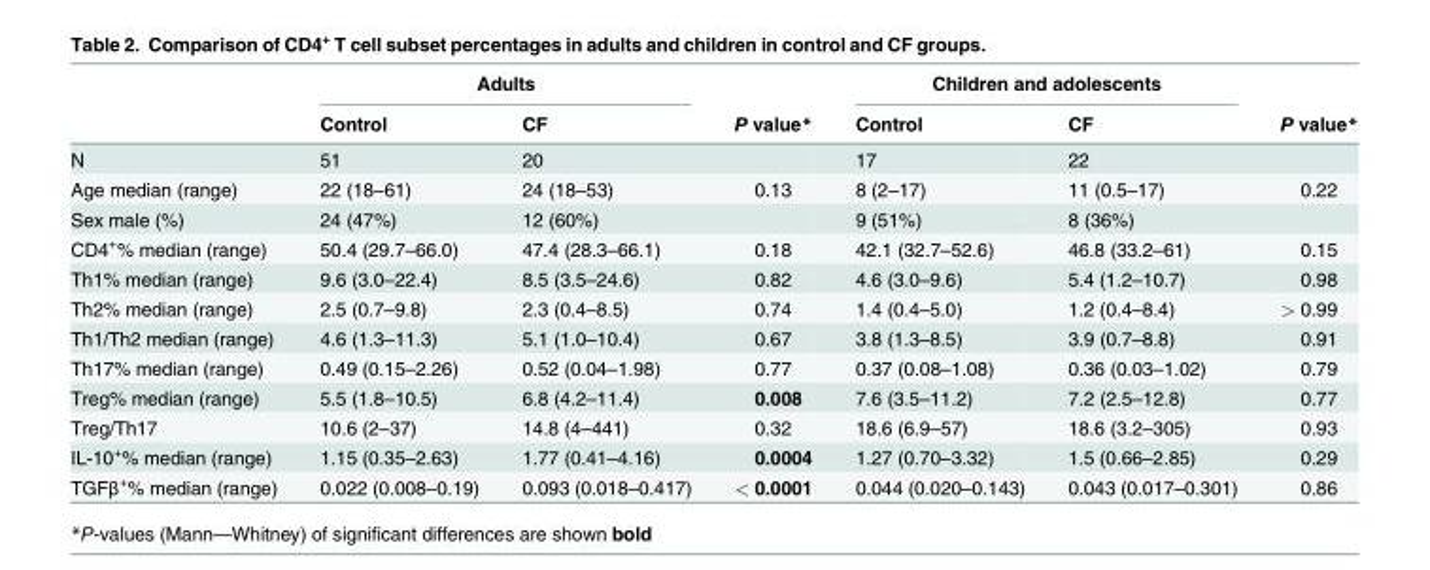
<table><thead><tr><td rowspan="2"></td><td colspan="2">Adults</td><td rowspan="2">P value*</td><td colspan="2">Children and adolescents</td><td rowspan="2">P value*</td></tr><tr><td>Control</td><td>CF</td><td>Control</td><td>CF</td></tr></thead><tbody><tr><td>N</td><td>51</td><td>20</td><td></td><td>17</td><td>22</td><td></td></tr><tr><td>Age median (range)</td><td>22 (18–61)</td><td>24 (18–53)</td><td>0.13</td><td>8 (2–17)</td><td>11 (0.5–17)</td><td>0.22</td></tr><tr><td>Sex male (%)</td><td>24 (47%)</td><td>12 (60%)</td><td></td><td>9 (51%)</td><td>8 (36%)</td><td></td></tr><tr><td>CD4<sup>+</sup>% median (range)</td><td>50.4 (29.7–66.0)</td><td>47.4 (28.3–66.1)</td><td>0.18</td><td>42.1 (32.7–52.6)</td><td>46.8 (33.2–61)</td><td>0.15</td></tr><tr><td>Th1% median (range)</td><td>9.6 (3.0–22.4)</td><td>8.5 (3.5–24.6)</td><td>0.82</td><td>4.6 (3.0–9.6)</td><td>5.4 (1.2–10.7)</td><td>0.98</td></tr><tr><td>Th2% median (range)</td><td>2.5 (0.7–9.8)</td><td>2.3 (0.4–8.5)</td><td>0.74</td><td>1.4 (0.4–5.0)</td><td>1.2 (0.4–8.4)</td><td>&gt; 0.99</td></tr><tr><td>Th1/Th2 median (range)</td><td>4.6 (1.3–11.3)</td><td>5.1 (1.0–10.4)</td><td>0.67</td><td>3.8 (1.3–8.5)</td><td>3.9 (0.7–8.8)</td><td>0.91</td></tr><tr><td>Th17% median (range)</td><td>0.49 (0.15–2.26)</td><td>0.52 (0.04–1.98)</td><td>0.77</td><td>0.37 (0.08–1.08)</td><td>0.36 (0.03–1.02)</td><td>0.79</td></tr><tr><td>Treg% median (range)</td><td>5.5 (1.8–10.5)</td><td>6.8 (4.2–11.4)</td><td>0.008</td><td>7.6 (3.5–11.2)</td><td>7.2 (2.5–12.8)</td><td>0.77</td></tr><tr><td>Treg/Th17</td><td>10.6 (2–37)</td><td>14.8 (4–441)</td><td>0.32</td><td>18.6 (6.9–57)</td><td>18.6 (3.2–305)</td><td>0.93</td></tr><tr><td>IL-10<sup>+</sup>% median (range)</td><td>1.15 (0.35–2.63)</td><td>1.77 (0.41–4.16)</td><td>0.0004</td><td>1.27 (0.70–3.32)</td><td>1.5 (0.66–2.85)</td><td>0.29</td></tr><tr><td>TGFβ<sup>+</sup>% median (range)</td><td>0.022 (0.008–0.19)</td><td>0.093 (0.018–0.417)</td><td>&lt; 0.0001</td><td>0.044 (0.020–0.143)</td><td>0.043 (0.017–0.301)</td><td>0.86</td></tr></tbody></table>